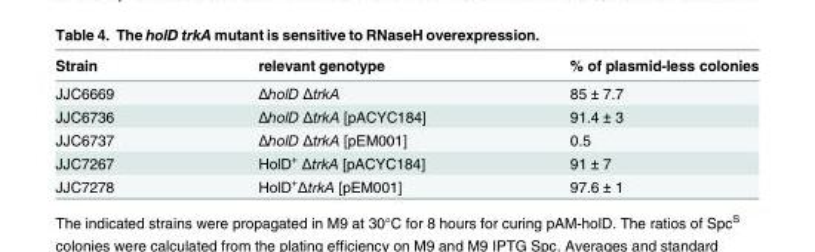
<table><thead><tr><td>Strain</td><td>relevant genotype</td><td>% of plasmid-less colonies</td></tr></thead><tbody><tr><td>JJC6669</td><td>ΔholD ΔtrkA</td><td>85 ± 7.7</td></tr><tr><td>JJC6736</td><td>ΔholD ΔtrkA [pACYC184]</td><td>91.4 ± 3</td></tr><tr><td>JJC6737</td><td>ΔholD ΔtrkA [pEM001]</td><td>0.5</td></tr><tr><td>JJC7267</td><td>HolD<sup>+</sup> ΔtrkA [pACYC184]</td><td>91 ± 7</td></tr><tr><td>JJC7278</td><td>HolD<sup>+</sup>ΔtrkA [pEM001]</td><td>97.6 ± 1</td></tr></tbody></table>